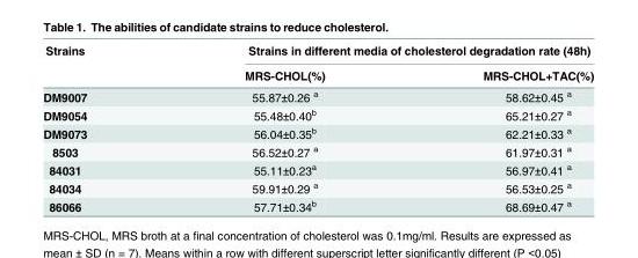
<table><thead><tr><td rowspan="2">Strains</td><td colspan="2">Strains in different media of cholesterol degradation rate (48h)</td></tr><tr><td>MRS-CHOL(%)</td><td>MRS-CHOL+TAC(%)</td></tr></thead><tbody><tr><td>DM9007</td><td>55.87±0.26 <sup>a</sup></td><td>58.62±0.45 <sup>a</sup></td></tr><tr><td>DM9054</td><td>55.48±0.40<sup>b</sup></td><td>65.21±0.27 <sup>a</sup></td></tr><tr><td>DM9073</td><td>56.04±0.35<sup>b</sup></td><td>62.21±0.33 <sup>a</sup></td></tr><tr><td>8503</td><td>56.52±0.27 <sup>a</sup></td><td>61.97±0.31 <sup>a</sup></td></tr><tr><td>84031</td><td>55.11±0.23<sup>a</sup></td><td>56.97±0.41 <sup>a</sup></td></tr><tr><td>84034</td><td>59.91±0.29 <sup>a</sup></td><td>56.53±0.25 <sup>a</sup></td></tr><tr><td>86066</td><td>57.71±0.34<sup>b</sup></td><td>68.69±0.47 <sup>a</sup></td></tr></tbody></table>